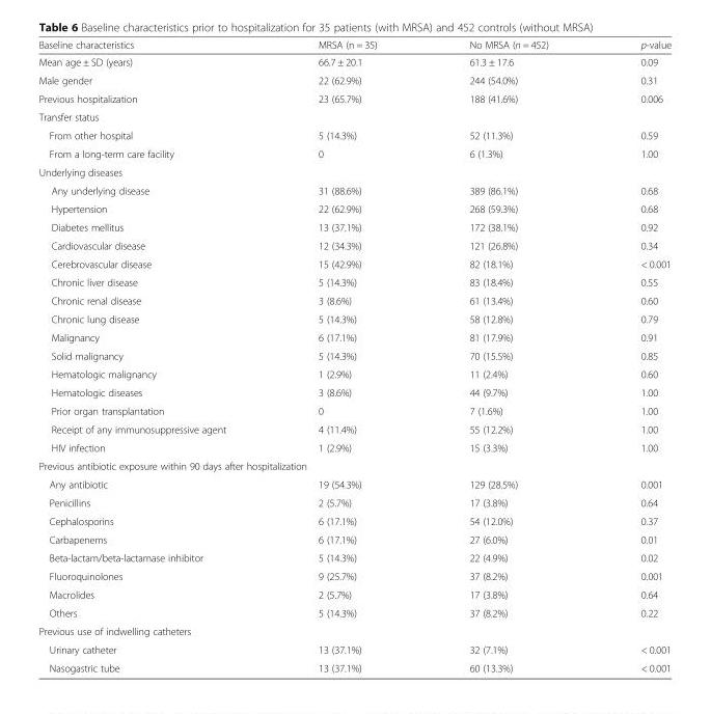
<table><thead><tr><td>Baseline characteristics</td><td>MRSA (n = 35)</td><td>No MRSA (n = 452)</td><td>p-value</td></tr></thead><tbody><tr><td>Mean age ± SD (years)</td><td>66.7 ± 20.1</td><td>61.3 ± 17.6</td><td>0.09</td></tr><tr><td>Male gender</td><td>22 (62.9%)</td><td>244 (54.0%)</td><td>0.31</td></tr><tr><td>Previous hospitalization</td><td>23 (65.7%)</td><td>188 (41.6%)</td><td>0.006</td></tr><tr><td colspan="4">Transfer status</td></tr><tr><td>From other hospital</td><td>5 (14.3%)</td><td>52 (11.3%)</td><td>0.59</td></tr><tr><td>From a long-term care facility</td><td>0</td><td>6 (1.3%)</td><td>1.00</td></tr><tr><td colspan="4">Underlying diseases</td></tr><tr><td>Any underlying disease</td><td>31 (88.6%)</td><td>389 (86.1%)</td><td>0.68</td></tr><tr><td>Hypertension</td><td>22 (62.9%)</td><td>268 (59.3%)</td><td>0.68</td></tr><tr><td>Diabetes mellitus</td><td>13 (37.1%)</td><td>172 (38.1%)</td><td>0.92</td></tr><tr><td>Cardiovascular disease</td><td>12 (34.3%)</td><td>121 (26.8%)</td><td>0.34</td></tr><tr><td>Cerebrovascular disease</td><td>15 (42.9%)</td><td>82 (18.1%)</td><td>&lt; 0.001</td></tr><tr><td>Chronic liver disease</td><td>5 (14.3%)</td><td>83 (18.4%)</td><td>0.55</td></tr><tr><td>Chronic renal disease</td><td>3 (8.6%)</td><td>61 (13.4%)</td><td>0.60</td></tr><tr><td>Chronic lung disease</td><td>5 (14.3%)</td><td>58 (12.8%)</td><td>0.79</td></tr><tr><td>Malignancy</td><td>6 (17.1%)</td><td>81 (17.9%)</td><td>0.91</td></tr><tr><td>Solid malignancy</td><td>5 (14.3%)</td><td>70 (15.5%)</td><td>0.85</td></tr><tr><td>Hematologic malignancy</td><td>1 (2.9%)</td><td>11 (2.4%)</td><td>0.60</td></tr><tr><td>Hematologic diseases</td><td>3 (8.6%)</td><td>44 (9.7%)</td><td>1.00</td></tr><tr><td>Prior organ transplantation</td><td>0</td><td>7 (1.6%)</td><td>1.00</td></tr><tr><td>Receipt of any immunosuppressive agent</td><td>4 (11.4%)</td><td>55 (12.2%)</td><td>1.00</td></tr><tr><td>HIV infection</td><td>1 (2.9%)</td><td>15 (3.3%)</td><td>1.00</td></tr><tr><td colspan="4">Previous antibiotic exposure within 90 days after hospitalization</td></tr><tr><td>Any antibiotic</td><td>19 (54.3%)</td><td>129 (28.5%)</td><td>0.001</td></tr><tr><td>Penicillins</td><td>2 (5.7%)</td><td>17 (3.8%)</td><td>0.64</td></tr><tr><td>Cephalosporins</td><td>6 (17.1%)</td><td>54 (12.0%)</td><td>0.37</td></tr><tr><td>Carbapenems</td><td>6 (17.1%)</td><td>27 (6.0%)</td><td>0.01</td></tr><tr><td>Beta-lactam/beta-lactamase inhibitor</td><td>5 (14.3%)</td><td>22 (4.9%)</td><td>0.02</td></tr><tr><td>Fluoroquinolones</td><td>9 (25.7%)</td><td>37 (8.2%)</td><td>0.001</td></tr><tr><td>Macrolides</td><td>2 (5.7%)</td><td>17 (3.8%)</td><td>0.64</td></tr><tr><td>Others</td><td>5 (14.3%)</td><td>37 (8.2%)</td><td>0.22</td></tr><tr><td colspan="4">Previous use of indwelling catheters</td></tr><tr><td>Urinary catheter</td><td>13 (37.1%)</td><td>32 (7.1%)</td><td>&lt; 0.001</td></tr><tr><td>Nasogastric tube</td><td>13 (37.1%)</td><td>60 (13.3%)</td><td>&lt; 0.001</td></tr></tbody></table>